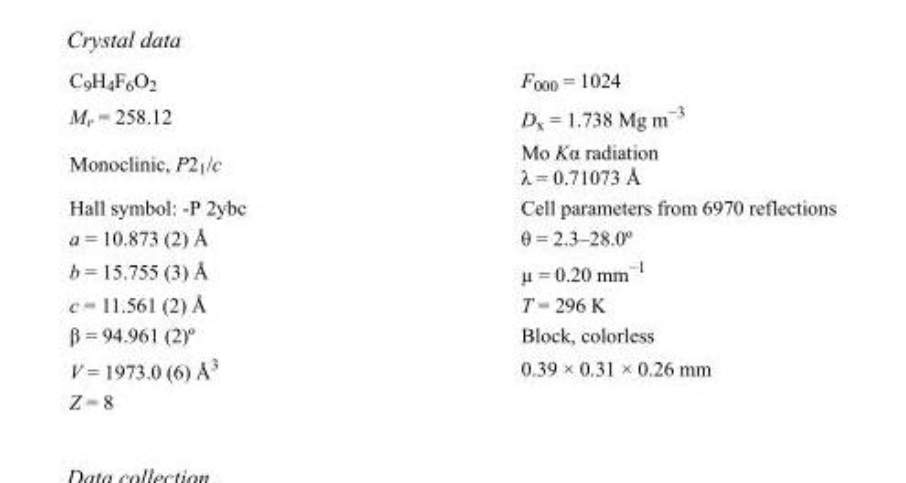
<table><tbody><tr><td>C<sub>9</sub>H<sub>4</sub>F<sub>6</sub>O<sub>2</sub></td><td>F000 = 1024</td></tr><tr><td>M<sub>r</sub> = 258.12</td><td>D<sub>x</sub> = 1.738 Mg m<sup>−3</sup></td></tr><tr><td>Monoclinic, P2<sub>1</sub>/c</td><td>Mo Kα radiation λ = 0.71073 Å</td></tr><tr><td>Hall symbol: -P 2ybc</td><td>Cell parameters from 6970 reflections</td></tr><tr><td>a = 10.873 (2) Å</td><td>θ = 2.3–28.0º</td></tr><tr><td>b = 15.755 (3) Å</td><td>µ = 0.20 mm<sup>−1</sup></td></tr><tr><td>c = 11.561 (2) Å</td><td>T = 296 K</td></tr><tr><td>β = 94.961 (2)º</td><td>Block, colorless</td></tr><tr><td>V = 1973.0 (6) Å<sup>3</sup></td><td>0.39 × 0.31 × 0.26 mm</td></tr><tr><td>Z = 8</td><td></td></tr></tbody></table>